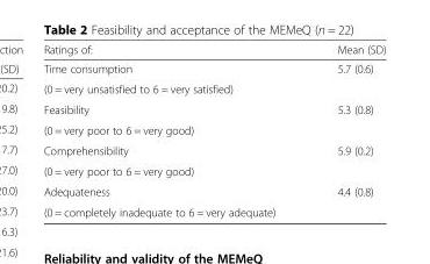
<table><thead><tr><td>Ratings of:</td><td>Mean (SD)</td></tr></thead><tbody><tr><td>Time consumption</td><td rowspan="2">5.7 (0.6)</td></tr><tr><td>(0 = very unsatisfied to 6 = very satisfied)</td></tr><tr><td>Feasibility</td><td rowspan="2">5.3 (0.8)</td></tr><tr><td>(0 = very poor to 6 = very good)</td></tr><tr><td>Comprehensibility</td><td rowspan="2">5.9 (0.2)</td></tr><tr><td>(0 = very poor to 6 = very good)</td></tr><tr><td>Adequateness</td><td rowspan="2">4.4 (0.8)</td></tr><tr><td>(0 = completely inadequate to 6 = very adequate)</td></tr></tbody></table>